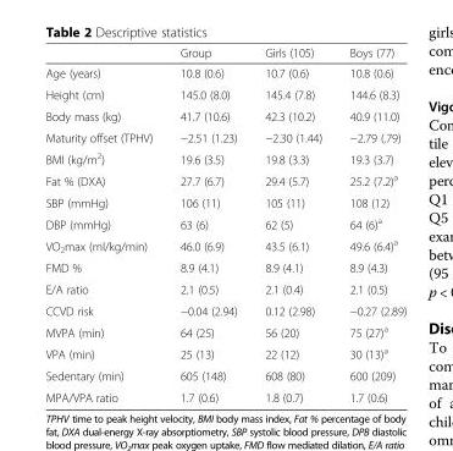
<table><thead><tr><td></td><td>Group</td><td>Girls (105)</td><td>Boys (77)</td></tr></thead><tbody><tr><td>Age (years)</td><td>10.8 (0.6)</td><td>10.7 (0.6)</td><td>10.8 (0.6)</td></tr><tr><td>Height (cm)</td><td>145.0 (8.0)</td><td>145.4 (7.8)</td><td>144.6 (8.3)</td></tr><tr><td>Body mass (kg)</td><td>41.7 (10.6)</td><td>42.3 (10.2)</td><td>40.9 (11.0)</td></tr><tr><td>Maturity offset (TPHV)</td><td>−2.51 (1.23)</td><td>−2.30 (1.44)</td><td>−2.79 (.79)</td></tr><tr><td>BMI (kg/m<sup>2</sup>)</td><td>19.6 (3.5)</td><td>19.8 (3.3)</td><td>19.3 (3.7)</td></tr><tr><td>Fat % (DXA)</td><td>27.7 (6.7)</td><td>29.4 (5.7)</td><td>25.2 (7.2)<sup>a</sup></td></tr><tr><td>SBP (mmHg)</td><td>106 (11)</td><td>105 (11)</td><td>108 (12)</td></tr><tr><td>DBP (mmHg)</td><td>63 (6)</td><td>62 (5)</td><td>64 (6)<sup>a</sup></td></tr><tr><td>VO<sub>2</sub>max (ml/kg/min)</td><td>46.0 (6.9)</td><td>43.5 (6.1)</td><td>49.6 (6.4)<sup>a</sup></td></tr><tr><td>FMD %</td><td>8.9 (4.1)</td><td>8.9 (4.1)</td><td>8.9 (4.3)</td></tr><tr><td>E/A ratio</td><td>2.1 (0.5)</td><td>2.1 (0.4)</td><td>2.1 (0.5)</td></tr><tr><td>CCVD risk</td><td>−0.04 (2.94)</td><td>0.12 (2.98)</td><td>−0.27 (2.89)</td></tr><tr><td>MVPA (min)</td><td>64 (25)</td><td>56 (20)</td><td>75 (27)<sup>a</sup></td></tr><tr><td>VPA (min)</td><td>25 (13)</td><td>22 (12)</td><td>30 (13)<sup>a</sup></td></tr><tr><td>Sedentary (min)</td><td>605 (148)</td><td>608 (80)</td><td>600 (209)</td></tr><tr><td>MPA/VPA ratio</td><td>1.7 (0.6)</td><td>1.8 (0.7)</td><td>1.7 (0.6)</td></tr></tbody></table>